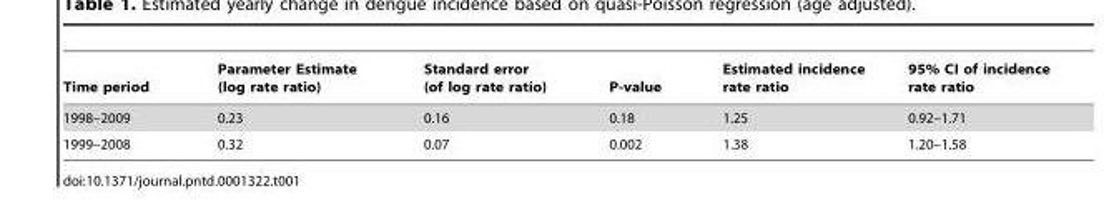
<table><thead><tr><td>Time period</td><td>Parameter Estimate (log rate ratio)</td><td>Standard error (of log rate ratio)</td><td>P-value</td><td>Estimated incidence rate ratio</td><td>95% CI of incidence rate ratio</td></tr></thead><tbody><tr><td>1998–2009</td><td>0.23</td><td>0.16</td><td>0.18</td><td>1.25</td><td>0.92–1.71</td></tr><tr><td>1999–2008</td><td>0.32</td><td>0.07</td><td>0.002</td><td>1.38</td><td>1.20–1.58</td></tr></tbody></table>